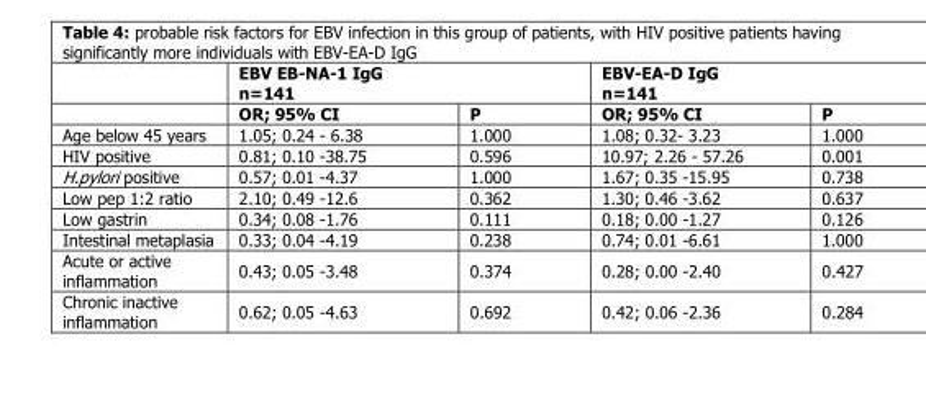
<table><thead><tr><td rowspan="2"></td><td colspan="2">EBV EB-NA-1 IgG n=141</td><td colspan="2">EBV-EA-D IgG n=141</td></tr><tr><td>OR; 95% CI</td><td>P</td><td>OR; 95% CI</td><td>P</td></tr></thead><tbody><tr><td>Age below 45 years</td><td>1.05; 0.24 - 6.38</td><td>1.000</td><td>1.08; 0.32- 3.23</td><td>1.000</td></tr><tr><td>HIV positive</td><td>0.81; 0.10 -38.75</td><td>0.596</td><td>10.97; 2.26 - 57.26</td><td>0.001</td></tr><tr><td>H.pylori positive</td><td>0.57; 0.01 -4.37</td><td>1.000</td><td>1.67; 0.35 -15.95</td><td>0.738</td></tr><tr><td>Low pep 1:2 ratio</td><td>2.10; 0.49 -12.6</td><td>0.362</td><td>1.30; 0.46 -3.62</td><td>0.637</td></tr><tr><td>Low gastrin</td><td>0.34; 0.08 -1.76</td><td>0.111</td><td>0.18; 0.00 -1.27</td><td>0.126</td></tr><tr><td>Intestinal metaplasia</td><td>0.33; 0.04 -4.19</td><td>0.238</td><td>0.74; 0.01 -6.61</td><td>1.000</td></tr><tr><td>Acute or active inflammation</td><td>0.43; 0.05 -3.48</td><td>0.374</td><td>0.28; 0.00 -2.40</td><td>0.427</td></tr><tr><td>Chronic inactive inflammation</td><td>0.62; 0.05 -4.63</td><td>0.692</td><td>0.42; 0.06 -2.36</td><td>0.284</td></tr></tbody></table>